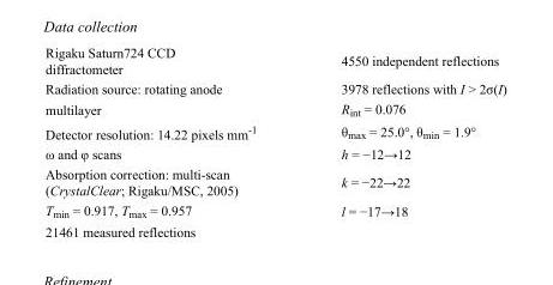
<table><tbody><tr><td>Rigaku Saturn724 CCD diffractometer</td><td>4550 independent reflections</td></tr><tr><td>Radiation source: rotating anode</td><td>3978 reflections with I &gt; 2σ(I)</td></tr><tr><td>multilayer</td><td>R<sub>int</sub> = 0.076</td></tr><tr><td>Detector resolution: 14.22 pixels mm<sup>-1</sup></td><td>θ<sub>max</sub> = 25.0°, θ<sub>min</sub> = 1.9°</td></tr><tr><td>ω and φ scans</td><td>h = −12→12</td></tr><tr><td>Absorption correction: multi-scan (CrystalClear; Rigaku/MSC, 2005)</td><td>k = −22→22</td></tr><tr><td>T<sub>min</sub> = 0.917, T<sub>max</sub> = 0.957</td><td>l = −17→18</td></tr><tr><td>21461 measured reflections</td><td></td></tr></tbody></table>